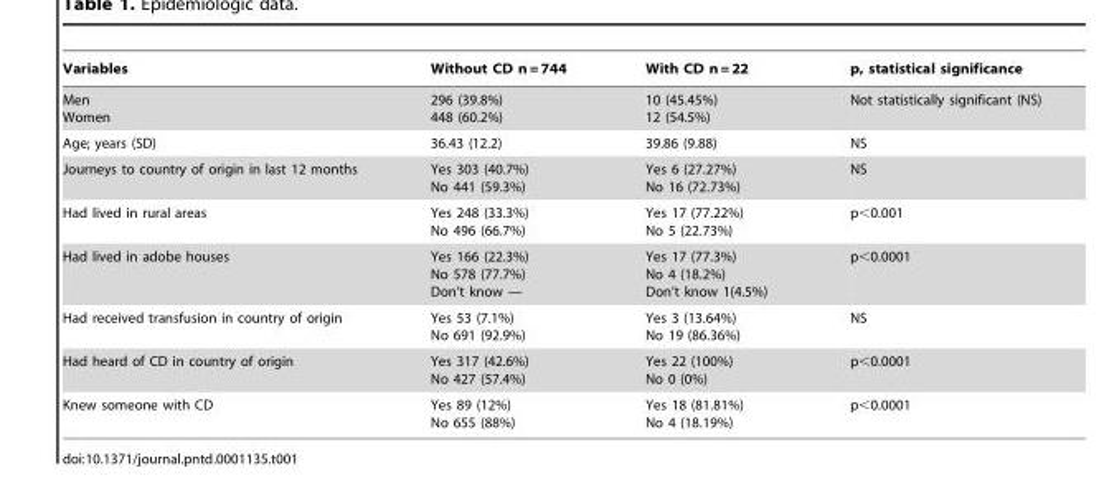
<table><thead><tr><td>Variables</td><td>Without CD n = 744</td><td>With CD n = 22</td><td>p, statistical significance</td></tr></thead><tbody><tr><td>Men Women</td><td>296 (39.8%) 448 (60.2%)</td><td>10 (45.45%) 12 (54.5%)</td><td>Not statistically significant (NS)</td></tr><tr><td>Age; years (SD)</td><td>36.43 (12.2)</td><td>39.86 (9.88)</td><td>NS</td></tr><tr><td>Journeys to country of origin in last 12 months</td><td>Yes 303 (40.7%) No 441 (59.3%)</td><td>Yes 6 (27.27%) No 16 (72.73%)</td><td>NS</td></tr><tr><td>Had lived in rural areas</td><td>Yes 248 (33.3%) No 496 (66.7%)</td><td>Yes 17 (77.22%) No 5 (22.73%)</td><td>p&lt;0.001</td></tr><tr><td>Had lived in adobe houses</td><td>Yes 166 (22.3%) No 578 (77.7%) Don’t know —</td><td>Yes 17 (77.3%) No 4 (18.2%) Don’t know 1(4.5%)</td><td>p&lt;0.0001</td></tr><tr><td>Had received transfusion in country of origin</td><td>Yes 53 (7.1%) No 691 (92.9%)</td><td>Yes 3 (13.64%) No 19 (86.36%)</td><td>NS</td></tr><tr><td>Had heard of CD in country of origin</td><td>Yes 317 (42.6%) No 427 (57.4%)</td><td>Yes 22 (100%) No 0 (0%)</td><td>p&lt;0.0001</td></tr><tr><td>Knew someone with CD</td><td>Yes 89 (12%) No 655 (88%)</td><td>Yes 18 (81.81%) No 4 (18.19%)</td><td>p&lt;0.0001</td></tr></tbody></table>